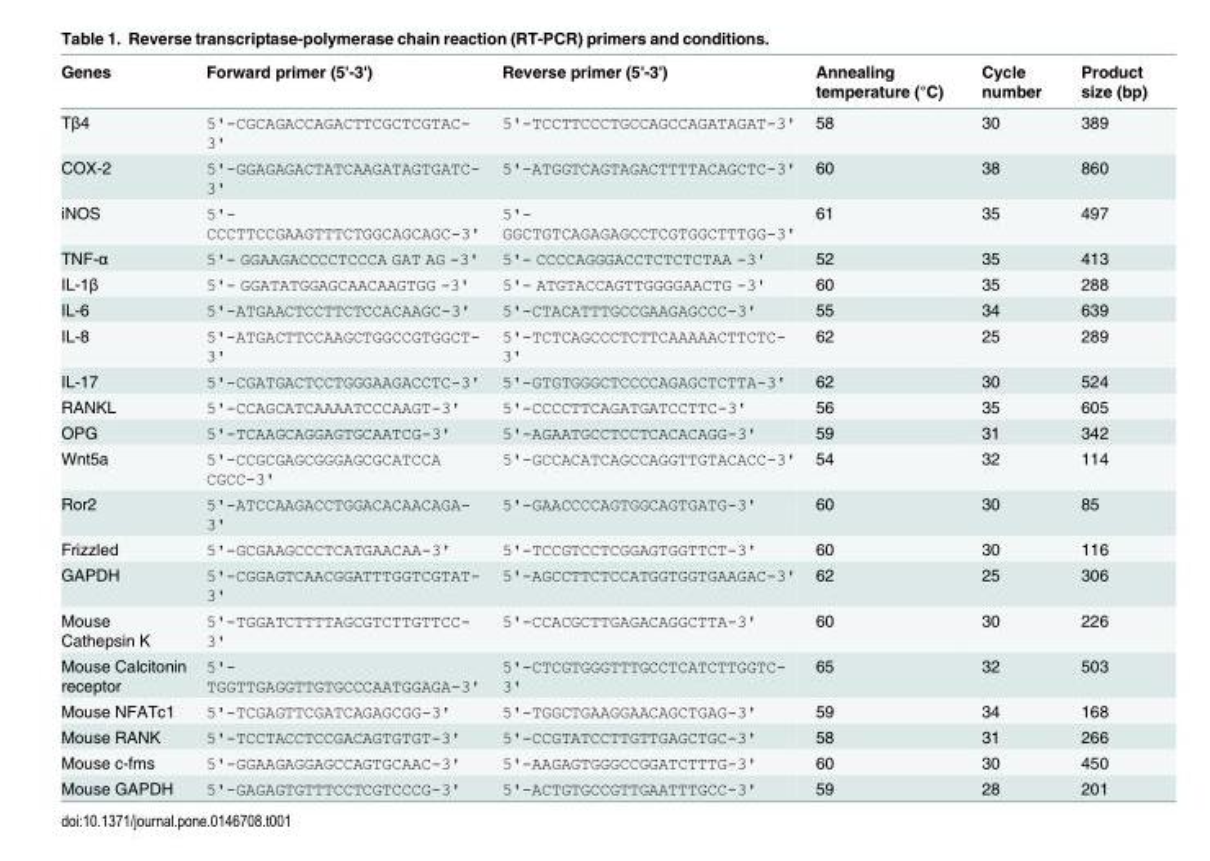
<table><thead><tr><td>Genes</td><td>Forward primer (5&#x27;-3&#x27;)</td><td>Reverse primer (5&#x27;-3&#x27;)</td><td>Annealing temperature (°C)</td><td>Cycle number</td><td>Product size (bp)</td></tr></thead><tbody><tr><td>Tβ4</td><td>5&#x27;-CGCAGACCAGACTTCGCTCGTAC- 3&#x27;</td><td>5&#x27;-TCCTTCCCTGCCAGCCAGATAGAT-3&#x27;</td><td>58</td><td>30</td><td>389</td></tr><tr><td>COX-2</td><td>5&#x27;-GGAGAGACTATCAAGATAGTGATC- 3&#x27;</td><td>5&#x27;-ATGGTCAGTAGACTTTTACAGCTC-3&#x27;</td><td>60</td><td>38</td><td>860</td></tr><tr><td>iNOS</td><td>5&#x27;- CCCTTCCGAAGTTTCTGGCAGCAGC-3&#x27;</td><td>5&#x27;- GGCTGTCAGAGAGCCTCGTGGCTTTGG-3&#x27;</td><td>61</td><td>35</td><td>497</td></tr><tr><td>TNF-α</td><td>5&#x27;- GGAAGACCCCTCCCA GAT AG -3&#x27;</td><td>5&#x27;- CCCCAGGGACCTCTCTCTAA -3&#x27;</td><td>52</td><td>35</td><td>413</td></tr><tr><td>IL-1β</td><td>5&#x27;- GGATATGGAGCAACAAGTGG -3&#x27;</td><td>5&#x27;- ATGTACCAGTTGGGGAACTG -3&#x27;</td><td>60</td><td>35</td><td>288</td></tr><tr><td>IL-6</td><td>5&#x27;-ATGAACTCCTTCTCCACAAGC-3&#x27;</td><td>5&#x27;-CTACATTTGCCGAAGAGCCC-3&#x27;</td><td>55</td><td>34</td><td>639</td></tr><tr><td>IL-8</td><td>5&#x27;-ATGACTTCCAAGCTGGCCGTGGCT- 3&#x27;</td><td>5&#x27;-TCTCAGCCCTCTTCAAAAACTTCTC- 3&#x27;</td><td>62</td><td>25</td><td>289</td></tr><tr><td>IL-17</td><td>5&#x27;-CGATGACTCCTGGGAAGACCTC-3&#x27;</td><td>5&#x27;-GTGTGGGCTCCCCAGAGCTCTTA-3&#x27;</td><td>62</td><td>30</td><td>524</td></tr><tr><td>RANKL</td><td>5&#x27;-CCAGCATCAAAATCCCAAGT-3&#x27;</td><td>5&#x27;-CCCCTTCAGATGATCCTTC-3&#x27;</td><td>56</td><td>35</td><td>605</td></tr><tr><td>OPG</td><td>5&#x27;-TCAAGCAGGAGTGCAATCG-3&#x27;</td><td>5&#x27;-AGAATGCCTCCTCACACAGG-3&#x27;</td><td>59</td><td>31</td><td>342</td></tr><tr><td>Wnt5a</td><td>5&#x27;-CCGCGAGCGGGAGCGCATCCA CGCC-3&#x27;</td><td>5&#x27;-GCCACATCAGCCAGGTTGTACACC-3&#x27;</td><td>54</td><td>32</td><td>114</td></tr><tr><td>Ror2</td><td>5&#x27;-ATCCAAGACCTGGACACAACAGA- 3&#x27;</td><td>5&#x27;-GAACCCCAGTGGCAGTGATG-3&#x27;</td><td>60</td><td>30</td><td>85</td></tr><tr><td>Frizzled</td><td>5&#x27;-GCGAAGCCCTCATGAACAA-3&#x27;</td><td>5&#x27;-TCCGTCCTCGGAGTGGTTCT-3&#x27;</td><td>60</td><td>30</td><td>116</td></tr><tr><td>GAPDH</td><td>5&#x27;-CGGAGTCAACGGATTTGGTCGTAT- 3&#x27;</td><td>5&#x27;-AGCCTTCTCCATGGTGGTGAAGAC-3&#x27;</td><td>62</td><td>25</td><td>306</td></tr><tr><td>Mouse Cathepsin K</td><td>5&#x27;-TGGATCTTTTAGCGTCTTGTTCC- 3&#x27;</td><td>5&#x27;-CCACGCTTGAGACAGGCTTA-3&#x27;</td><td>60</td><td>30</td><td>226</td></tr><tr><td>Mouse Calcitonin receptor</td><td>5&#x27;- TGGTTGAGGTTGTGCCCAATGGAGA-3&#x27;</td><td>5&#x27;-CTCGTGGGTTTGCCTCATCTTGGTC- 3&#x27;</td><td>65</td><td>32</td><td>503</td></tr><tr><td>Mouse NFATc1</td><td>5&#x27;-TCGAGTTCGATCAGAGCGG-3&#x27;</td><td>5&#x27;-TGGCTGAAGGAACAGCTGAG-3&#x27;</td><td>59</td><td>34</td><td>168</td></tr><tr><td>Mouse RANK</td><td>5&#x27;-TCCTACCTCCGACAGTGTGT-3&#x27;</td><td>5&#x27;-CCGTATCCTTGTTGAGCTGC-3&#x27;</td><td>58</td><td>31</td><td>266</td></tr><tr><td>Mouse c-fms</td><td>5&#x27;-GGAAGAGGAGCCAGTGCAAC-3&#x27;</td><td>5&#x27;-AAGAGTGGGCCGGATCTTTG-3&#x27;</td><td>60</td><td>30</td><td>450</td></tr><tr><td>Mouse GAPDH</td><td>5&#x27;-GAGAGTGTTTCCTCGTCCCG-3&#x27;</td><td>5&#x27;-ACTGTGCCGTTGAATTTGCC-3&#x27;</td><td>59</td><td>28</td><td>201</td></tr></tbody></table>